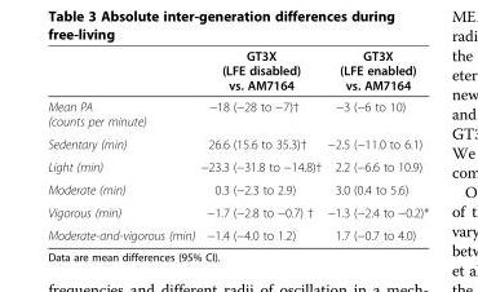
<table><thead><tr><td></td><td>GT3X (LFE disabled) vs. AM7164</td><td>GT3X (LFE enabled) vs. AM7164</td></tr></thead><tbody><tr><td>Mean PA (counts per minute)</td><td>−18 (−28 to −7)†</td><td>−3 (−6 to 10)</td></tr><tr><td>Sedentary (min)</td><td>26.6 (15.6 to 35.3)†</td><td>−2.5 (−11.0 to 6.1)</td></tr><tr><td>Light (min)</td><td>−23.3 (−31.8 to −14.8)†</td><td>2.2 (−6.6 to 10.9)</td></tr><tr><td>Moderate (min)</td><td>0.3 (−2.3 to 2.9)</td><td>3.0 (0.4 to 5.6)</td></tr><tr><td>Vigorous (min)</td><td>−1.7 (−2.8 to −0.7) †</td><td>−1.3 (−2.4 to −0.2)*</td></tr><tr><td>Moderate-and-vigorous (min)</td><td>−1.4 (−4.0 to 1.2)</td><td>1.7 (−0.7 to 4.0)</td></tr></tbody></table>